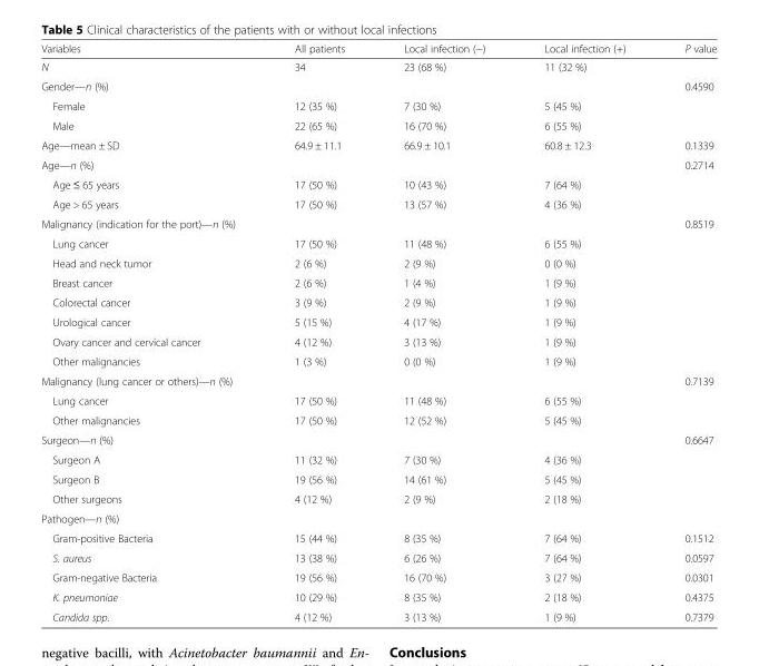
<table><thead><tr><td>Variables</td><td>All patients</td><td>Local infection (−)</td><td>Local infection (+)</td><td>P value</td></tr></thead><tbody><tr><td>N</td><td>34</td><td>23 (68 %)</td><td>11 (32 %)</td><td></td></tr><tr><td>Gender—n (%)</td><td></td><td></td><td></td><td>0.4590</td></tr><tr><td>Female</td><td>12 (35 %)</td><td>7 (30 %)</td><td>5 (45 %)</td><td></td></tr><tr><td>Male</td><td>22 (65 %)</td><td>16 (70 %)</td><td>6 (55 %)</td><td></td></tr><tr><td>Age—mean ± SD</td><td>64.9 ± 11.1</td><td>66.9 ± 10.1</td><td>60.8 ± 12.3</td><td>0.1339</td></tr><tr><td>Age—n (%)</td><td></td><td></td><td></td><td>0.2714</td></tr><tr><td>Age ≤ 65 years</td><td>17 (50 %)</td><td>10 (43 %)</td><td>7 (64 %)</td><td></td></tr><tr><td>Age &gt; 65 years</td><td>17 (50 %)</td><td>13 (57 %)</td><td>4 (36 %)</td><td></td></tr><tr><td>Malignancy (indication for the port)—n (%)</td><td></td><td></td><td></td><td>0.8519</td></tr><tr><td>Lung cancer</td><td>17 (50 %)</td><td>11 (48 %)</td><td>6 (55 %)</td><td></td></tr><tr><td>Head and neck tumor</td><td>2 (6 %)</td><td>2 (9 %)</td><td>0 (0 %)</td><td></td></tr><tr><td>Breast cancer</td><td>2 (6 %)</td><td>1 (4 %)</td><td>1 (9 %)</td><td></td></tr><tr><td>Colorectal cancer</td><td>3 (9 %)</td><td>2 (9 %)</td><td>1 (9 %)</td><td></td></tr><tr><td>Urological cancer</td><td>5 (15 %)</td><td>4 (17 %)</td><td>1 (9 %)</td><td></td></tr><tr><td>Ovary cancer and cervical cancer</td><td>4 (12 %)</td><td>3 (13 %)</td><td>1 (9 %)</td><td></td></tr><tr><td>Other malignancies</td><td>1 (3 %)</td><td>0 (0 %)</td><td>1 (9 %)</td><td></td></tr><tr><td>Malignancy (lung cancer or others)—n (%)</td><td></td><td></td><td></td><td>0.7139</td></tr><tr><td>Lung cancer</td><td>17 (50 %)</td><td>11 (48 %)</td><td>6 (55 %)</td><td></td></tr><tr><td>Other malignancies</td><td>17 (50 %)</td><td>12 (52 %)</td><td>5 (45 %)</td><td></td></tr><tr><td>Surgeon—n (%)</td><td></td><td></td><td></td><td>0.6647</td></tr><tr><td>Surgeon A</td><td>11 (32 %)</td><td>7 (30 %)</td><td>4 (36 %)</td><td></td></tr><tr><td>Surgeon B</td><td>19 (56 %)</td><td>14 (61 %)</td><td>5 (45 %)</td><td></td></tr><tr><td>Other surgeons</td><td>4 (12 %)</td><td>2 (9 %)</td><td>2 (18 %)</td><td></td></tr><tr><td colspan="5">Pathogen—n (%)</td></tr><tr><td>Gram-positive Bacteria</td><td>15 (44 %)</td><td>8 (35 %)</td><td>7 (64 %)</td><td>0.1512</td></tr><tr><td>S. aureus</td><td>13 (38 %)</td><td>6 (26 %)</td><td>7 (64 %)</td><td>0.0597</td></tr><tr><td>Gram-negative Bacteria</td><td>19 (56 %)</td><td>16 (70 %)</td><td>3 (27 %)</td><td>0.0301</td></tr><tr><td>K. pneumoniae</td><td>10 (29 %)</td><td>8 (35 %)</td><td>2 (18 %)</td><td>0.4375</td></tr><tr><td>Candida spp.</td><td>4 (12 %)</td><td>3 (13 %)</td><td>1 (9 %)</td><td>0.7379</td></tr></tbody></table>